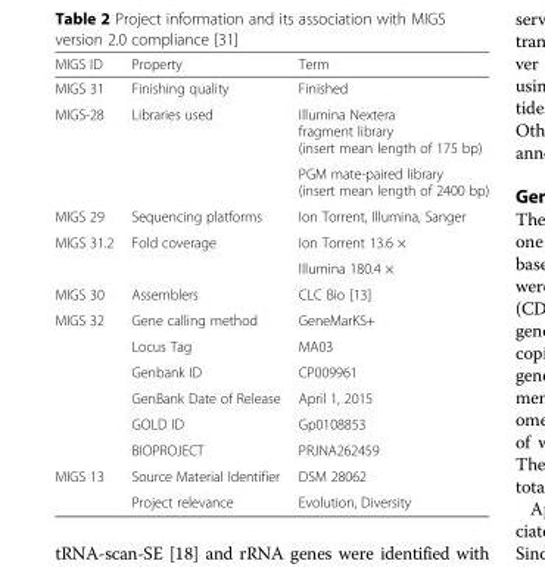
<table><thead><tr><td>MIGS ID</td><td>Property</td><td>Term</td></tr></thead><tbody><tr><td>MIGS 31</td><td>Finishing quality</td><td>Finished</td></tr><tr><td rowspan="2">MIGS-28</td><td rowspan="2">Libraries used</td><td>Illumina Nextera fragment library (insert mean length of 175 bp)</td></tr><tr><td>PGM mate-paired library (insert mean length of 2400 bp)</td></tr><tr><td>MIGS 29</td><td>Sequencing platforms</td><td>Ion Torrent, Illumina, Sanger</td></tr><tr><td rowspan="2">MIGS 31.2</td><td rowspan="2">Fold coverage</td><td>Ion Torrent 13.6 ×</td></tr><tr><td>Illumina 180.4 ×</td></tr><tr><td>MIGS 30</td><td>Assemblers</td><td>CLC Bio [13]</td></tr><tr><td rowspan="6">MIGS 32</td><td>Gene calling method</td><td>GeneMarKS+</td></tr><tr><td>Locus Tag</td><td>MA03</td></tr><tr><td>Genbank ID</td><td>CP009961</td></tr><tr><td>GenBank Date of Release</td><td>April 1, 2015</td></tr><tr><td>GOLD ID</td><td>Gp0108853</td></tr><tr><td>BIOPROJECT</td><td>PRJNA262459</td></tr><tr><td rowspan="2">MIGS 13</td><td>Source Material Identifier</td><td>DSM 28062</td></tr><tr><td>Project relevance</td><td>Evolution, Diversity</td></tr></tbody></table>